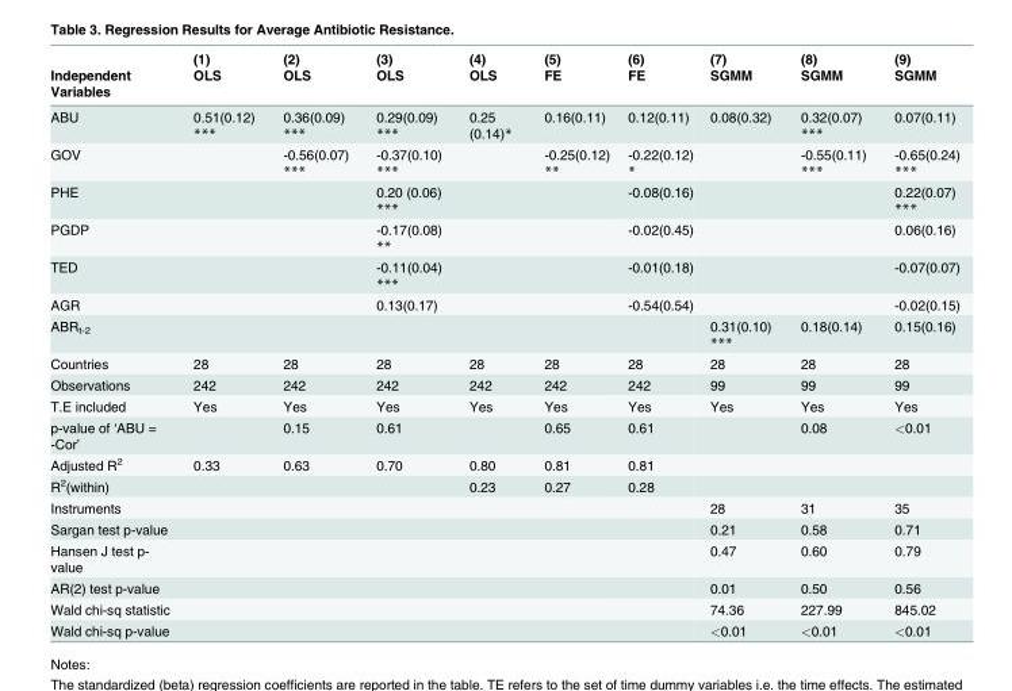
<table><thead><tr><td rowspan="2">Independent Variables</td><td rowspan="2">(1) OLS</td><td rowspan="2">(2) OLS</td><td rowspan="2">(3) OLS</td><td rowspan="2">(4) OLS</td><td rowspan="2">(5) FE</td><td rowspan="2">(6) FE</td><td rowspan="2">(7) SGMM</td><td rowspan="2">(8) SGMM</td><td rowspan="2">(9) SGMM</td></tr><tr></tr></thead><tbody><tr><td>ABU</td><td>0.51(0.12) ***</td><td>0.36(0.09) ***</td><td>0.29(0.09) ***</td><td>0.25 (0.14)*</td><td>0.16(0.11)</td><td>0.12(0.11)</td><td>0.08(0.32)</td><td>0.32(0.07) ***</td><td>0.07(0.11)</td></tr><tr><td>GOV</td><td></td><td>-0.56(0.07) ***</td><td>-0.37(0.10) ***</td><td></td><td>-0.25(0.12) **</td><td>-0.22(0.12) *</td><td></td><td>-0.55(0.11) ***</td><td>-0.65(0.24) ***</td></tr><tr><td>PHE</td><td></td><td></td><td>0.20 (0.06) ***</td><td></td><td></td><td>-0.08(0.16)</td><td></td><td></td><td>0.22(0.07) ***</td></tr><tr><td>PGDP</td><td></td><td></td><td>-0.17(0.08) **</td><td></td><td></td><td>-0.02(0.45)</td><td></td><td></td><td>0.06(0.16)</td></tr><tr><td>TED</td><td></td><td></td><td>-0.11(0.04) ***</td><td></td><td></td><td>-0.01(0.18)</td><td></td><td></td><td>-0.07(0.07)</td></tr><tr><td>AGR</td><td></td><td></td><td>0.13(0.17)</td><td></td><td></td><td>-0.54(0.54)</td><td></td><td></td><td>-0.02(0.15)</td></tr><tr><td>ABR<sub>t-2</sub></td><td></td><td></td><td></td><td></td><td></td><td></td><td>0.31(0.10) ***</td><td>0.18(0.14)</td><td>0.15(0.16)</td></tr><tr><td>Countries</td><td>28</td><td>28</td><td>28</td><td>28</td><td>28</td><td>28</td><td>28</td><td>28</td><td>28</td></tr><tr><td>Observations</td><td>242</td><td>242</td><td>242</td><td>242</td><td>242</td><td>242</td><td>99</td><td>99</td><td>99</td></tr><tr><td>T.E included</td><td>Yes</td><td>Yes</td><td>Yes</td><td>Yes</td><td>Yes</td><td>Yes</td><td>Yes</td><td>Yes</td><td>Yes</td></tr><tr><td>p-value of ‘ABU = -Cor’</td><td></td><td>0.15</td><td>0.61</td><td></td><td>0.65</td><td>0.61</td><td></td><td>0.08</td><td>&lt;0.01</td></tr><tr><td>Adjusted R<sup>2</sup></td><td>0.33</td><td>0.63</td><td>0.70</td><td>0.80</td><td>0.81</td><td>0.81</td><td></td><td></td><td></td></tr><tr><td>R<sup>2</sup>(within)</td><td></td><td></td><td></td><td>0.23</td><td>0.27</td><td>0.28</td><td></td><td></td><td></td></tr><tr><td>Instruments</td><td></td><td></td><td></td><td></td><td></td><td></td><td>28</td><td>31</td><td>35</td></tr><tr><td>Sargan test p-value</td><td></td><td></td><td></td><td></td><td></td><td></td><td>0.21</td><td>0.58</td><td>0.71</td></tr><tr><td>Hansen J test p- value</td><td></td><td></td><td></td><td></td><td></td><td></td><td>0.47</td><td>0.60</td><td>0.79</td></tr><tr><td>AR(2) test p-value</td><td></td><td></td><td></td><td></td><td></td><td></td><td>0.01</td><td>0.50</td><td>0.56</td></tr><tr><td>Wald chi-sq statistic</td><td></td><td></td><td></td><td></td><td></td><td></td><td>74.36</td><td>227.99</td><td>845.02</td></tr><tr><td>Wald chi-sq p-value</td><td></td><td></td><td></td><td></td><td></td><td></td><td>&lt;0.01</td><td>&lt;0.01</td><td>&lt;0.01</td></tr></tbody></table>